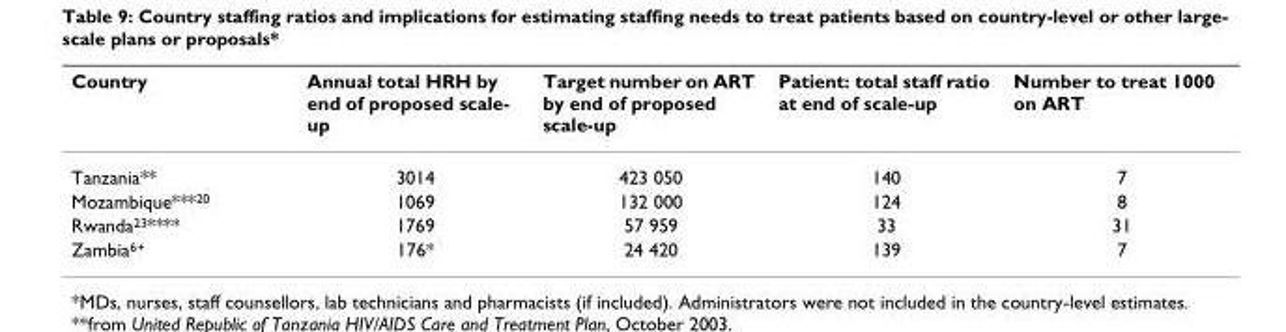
<table><thead><tr><td>Country</td><td>Annual total HRH by end of proposed scale- up</td><td>Target number on ART by end of proposed scale-up</td><td>Patient: total staff ratio at end of scale-up</td><td>Number to treat 1000 on ART</td></tr></thead><tbody><tr><td>Tanzania**</td><td>3014</td><td>423 050</td><td>140</td><td>7</td></tr><tr><td>Mozambique***<sup>20</sup></td><td>1069</td><td>132 000</td><td>124</td><td>8</td></tr><tr><td>Rwanda<sup>23</sup>****</td><td>1769</td><td>57 959</td><td>33</td><td>31</td></tr><tr><td>Zambia<sup>6+</sup></td><td>176*</td><td>24 420</td><td>139</td><td>7</td></tr></tbody></table>